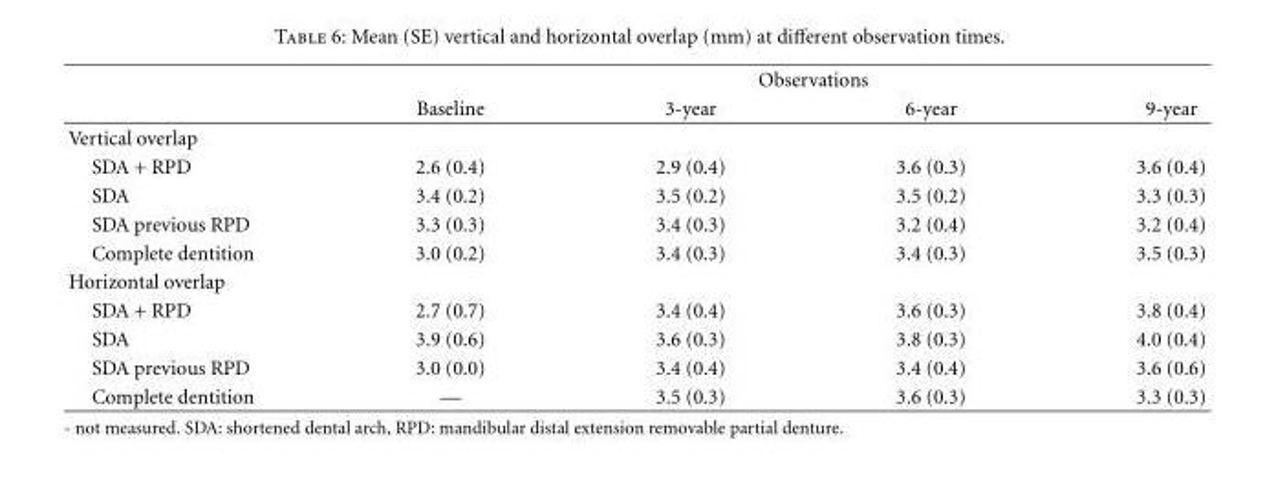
<table><thead><tr><td rowspan="2"></td><td colspan="4">Observations</td></tr><tr><td>Baseline</td><td>3-year</td><td>6-year</td><td>9-year</td></tr></thead><tbody><tr><td colspan="5">Vertical overlap</td></tr><tr><td>SDA + RPD</td><td>2.6 (0.4)</td><td>2.9 (0.4)</td><td>3.6 (0.3)</td><td>3.6 (0.4)</td></tr><tr><td>SDA</td><td>3.4 (0.2)</td><td>3.5 (0.2)</td><td>3.5 (0.2)</td><td>3.3 (0.3)</td></tr><tr><td>SDA previous RPD</td><td>3.3 (0.3)</td><td>3.4 (0.3)</td><td>3.2 (0.4)</td><td>3.2 (0.4)</td></tr><tr><td>Complete dentition</td><td>3.0 (0.2)</td><td>3.4 (0.3)</td><td>3.4 (0.3)</td><td>3.5 (0.3)</td></tr><tr><td colspan="5">Horizontal overlap</td></tr><tr><td>SDA + RPD</td><td>2.7 (0.7)</td><td>3.4 (0.4)</td><td>3.6 (0.3)</td><td>3.8 (0.4)</td></tr><tr><td>SDA</td><td>3.9 (0.6)</td><td>3.6 (0.3)</td><td>3.8 (0.3)</td><td>4.0 (0.4)</td></tr><tr><td>SDA previous RPD</td><td>3.0 (0.0)</td><td>3.4 (0.4)</td><td>3.4 (0.4)</td><td>3.6 (0.6)</td></tr><tr><td>Complete dentition</td><td>—</td><td>3.5 (0.3)</td><td>3.6 (0.3)</td><td>3.3 (0.3)</td></tr></tbody></table>